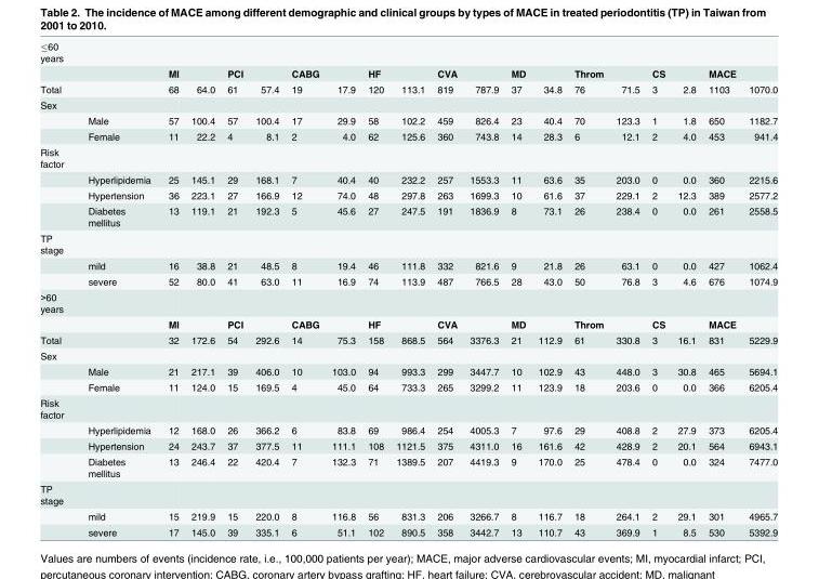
<table><tbody><tr><td colspan="20">≤60 years</td></tr><tr><td></td><td></td><td>MI</td><td></td><td>PCI</td><td></td><td>CABG</td><td></td><td>HF</td><td></td><td>CVA</td><td></td><td>MD</td><td></td><td>Throm</td><td></td><td>CS</td><td></td><td>MACE</td><td></td></tr><tr><td>Total</td><td></td><td>68</td><td>64.0</td><td>61</td><td>57.4</td><td>19</td><td>17.9</td><td>120</td><td>113.1</td><td>819</td><td>787.9</td><td>37</td><td>34.8</td><td>76</td><td>71.5</td><td>3</td><td>2.8</td><td>1103</td><td>1070.0</td></tr><tr><td colspan="20">Sex</td></tr><tr><td></td><td>Male</td><td>57</td><td>100.4</td><td>57</td><td>100.4</td><td>17</td><td>29.9</td><td>58</td><td>102.2</td><td>459</td><td>826.4</td><td>23</td><td>40.4</td><td>70</td><td>123.3</td><td>1</td><td>1.8</td><td>650</td><td>1182.7</td></tr><tr><td></td><td>Female</td><td>11</td><td>22.2</td><td>4</td><td>8.1</td><td>2</td><td>4.0</td><td>62</td><td>125.6</td><td>360</td><td>743.8</td><td>14</td><td>28.3</td><td>6</td><td>12.1</td><td>2</td><td>4.0</td><td>453</td><td>941.4</td></tr><tr><td colspan="20">Risk factor</td></tr><tr><td></td><td>Hyperlipidemia</td><td>25</td><td>145.1</td><td>29</td><td>168.1</td><td>7</td><td>40.4</td><td>40</td><td>232.2</td><td>257</td><td>1553.3</td><td>11</td><td>63.6</td><td>35</td><td>203.0</td><td>0</td><td>0.0</td><td>360</td><td>2215.6</td></tr><tr><td></td><td>Hypertension</td><td>36</td><td>223.1</td><td>27</td><td>166.9</td><td>12</td><td>74.0</td><td>48</td><td>297.8</td><td>263</td><td>1699.3</td><td>10</td><td>61.6</td><td>37</td><td>229.1</td><td>2</td><td>12.3</td><td>389</td><td>2577.2</td></tr><tr><td></td><td>Diabetes mellitus</td><td>13</td><td>119.1</td><td>21</td><td>192.3</td><td>5</td><td>45.6</td><td>27</td><td>247.5</td><td>191</td><td>1836.9</td><td>8</td><td>73.1</td><td>26</td><td>238.4</td><td>0</td><td>0.0</td><td>261</td><td>2558.5</td></tr><tr><td colspan="20">TP stage</td></tr><tr><td></td><td>mild</td><td>16</td><td>38.8</td><td>21</td><td>48.5</td><td>8</td><td>19.4</td><td>46</td><td>111.8</td><td>332</td><td>821.6</td><td>9</td><td>21.8</td><td>26</td><td>63.1</td><td>0</td><td>0.0</td><td>427</td><td>1062.4</td></tr><tr><td></td><td>severe</td><td>52</td><td>80.0</td><td>41</td><td>63.0</td><td>11</td><td>16.9</td><td>74</td><td>113.9</td><td>487</td><td>766.5</td><td>28</td><td>43.0</td><td>50</td><td>76.8</td><td>3</td><td>4.6</td><td>676</td><td>1074.9</td></tr><tr><td colspan="20">&gt;60 years</td></tr><tr><td></td><td></td><td>MI</td><td></td><td>PCI</td><td></td><td>CABG</td><td></td><td>HF</td><td></td><td>CVA</td><td></td><td>MD</td><td></td><td>Throm</td><td></td><td>CS</td><td></td><td>MACE</td><td></td></tr><tr><td>Total</td><td></td><td>32</td><td>172.6</td><td>54</td><td>292.6</td><td>14</td><td>75.3</td><td>158</td><td>868.5</td><td>564</td><td>3376.3</td><td>21</td><td>112.9</td><td>61</td><td>330.8</td><td>3</td><td>16.1</td><td>831</td><td>5229.9</td></tr><tr><td colspan="20">Sex</td></tr><tr><td></td><td>Male</td><td>21</td><td>217.1</td><td>39</td><td>406.0</td><td>10</td><td>103.0</td><td>94</td><td>993.3</td><td>299</td><td>3447.7</td><td>10</td><td>102.9</td><td>43</td><td>448.0</td><td>3</td><td>30.8</td><td>465</td><td>5694.1</td></tr><tr><td></td><td>Female</td><td>11</td><td>124.0</td><td>15</td><td>169.5</td><td>4</td><td>45.0</td><td>64</td><td>733.3</td><td>265</td><td>3299.2</td><td>11</td><td>123.9</td><td>18</td><td>203.6</td><td>0</td><td>0.0</td><td>366</td><td>6205.4</td></tr><tr><td colspan="20">Risk factor</td></tr><tr><td></td><td>Hyperlipidemia</td><td>12</td><td>168.0</td><td>26</td><td>366.2</td><td>6</td><td>83.8</td><td>69</td><td>986.4</td><td>254</td><td>4005.3</td><td>7</td><td>97.6</td><td>29</td><td>408.8</td><td>2</td><td>27.9</td><td>373</td><td>6205.4</td></tr><tr><td></td><td>Hypertension</td><td>24</td><td>243.7</td><td>37</td><td>377.5</td><td>11</td><td>111.1</td><td>108</td><td>1121.5</td><td>375</td><td>4311.0</td><td>16</td><td>161.6</td><td>42</td><td>428.9</td><td>2</td><td>20.1</td><td>564</td><td>6943.1</td></tr><tr><td></td><td>Diabetes mellitus</td><td>13</td><td>246.4</td><td>22</td><td>420.4</td><td>7</td><td>132.3</td><td>71</td><td>1389.5</td><td>207</td><td>4419.3</td><td>9</td><td>170.0</td><td>25</td><td>478.4</td><td>0</td><td>0.0</td><td>324</td><td>7477.0</td></tr><tr><td colspan="20">TP stage</td></tr><tr><td></td><td>mild</td><td>15</td><td>219.9</td><td>15</td><td>220.0</td><td>8</td><td>116.8</td><td>56</td><td>831.3</td><td>206</td><td>3266.7</td><td>8</td><td>116.7</td><td>18</td><td>264.1</td><td>2</td><td>29.1</td><td>301</td><td>4965.7</td></tr><tr><td></td><td>severe</td><td>17</td><td>145.0</td><td>39</td><td>335.1</td><td>6</td><td>51.1</td><td>102</td><td>890.5</td><td>358</td><td>3442.7</td><td>13</td><td>110.7</td><td>43</td><td>369.9</td><td>1</td><td>8.5</td><td>530</td><td>5392.9</td></tr></tbody></table>